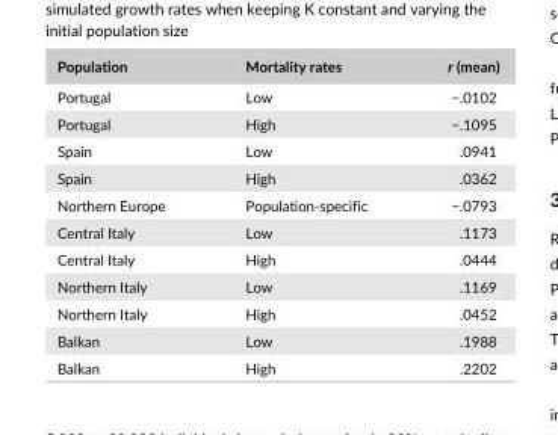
<table><thead><tr><td>Population</td><td>Mortality rates</td><td>r (mean)</td></tr></thead><tbody><tr><td>Portugal</td><td>Low</td><td>−.0102</td></tr><tr><td>Portugal</td><td>High</td><td>−.1095</td></tr><tr><td>Spain</td><td>Low</td><td>.0941</td></tr><tr><td>Spain</td><td>High</td><td>.0362</td></tr><tr><td>Northern Europe</td><td>Population- specific</td><td>−.0793</td></tr><tr><td>Central Italy</td><td>Low</td><td>.1173</td></tr><tr><td>Central Italy</td><td>High</td><td>.0444</td></tr><tr><td>Northern Italy</td><td>Low</td><td>.1169</td></tr><tr><td>Northern Italy</td><td>High</td><td>.0452</td></tr><tr><td>Balkan</td><td>Low</td><td>.1988</td></tr><tr><td>Balkan</td><td>High</td><td>.2202</td></tr></tbody></table>